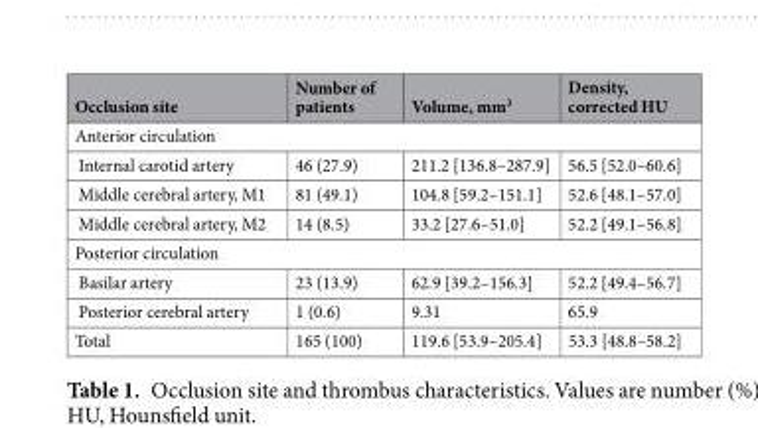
<table><thead><tr><td>Occlusion site</td><td>Number of patients</td><td>Volume, mm<sup>3</sup></td><td>Density, corrected HU</td></tr></thead><tbody><tr><td colspan="4">Anterior circulation</td></tr><tr><td>Internal carotid artery</td><td>46 (27.9)</td><td>211.2 [136.8–287.9]</td><td>56.5 [52.0–60.6]</td></tr><tr><td>Middle cerebral artery, M1</td><td>81 (49.1)</td><td>104.8 [59.2–151.1]</td><td>52.6 [48.1–57.0]</td></tr><tr><td>Middle cerebral artery, M2</td><td>14 (8.5)</td><td>33.2 [27.6–51.0]</td><td>52.2 [49.1–56.8]</td></tr><tr><td colspan="4">Posterior circulation</td></tr><tr><td>Basilar artery</td><td>23 (13.9)</td><td>62.9 [39.2–156.3]</td><td>52.2 [49.4–56.7]</td></tr><tr><td>Posterior cerebral artery</td><td>1 (0.6)</td><td>9.31</td><td>65.9</td></tr><tr><td>Total</td><td>165 (100)</td><td>119.6 [53.9–205.4]</td><td>53.3 [48.8–58.2]</td></tr></tbody></table>